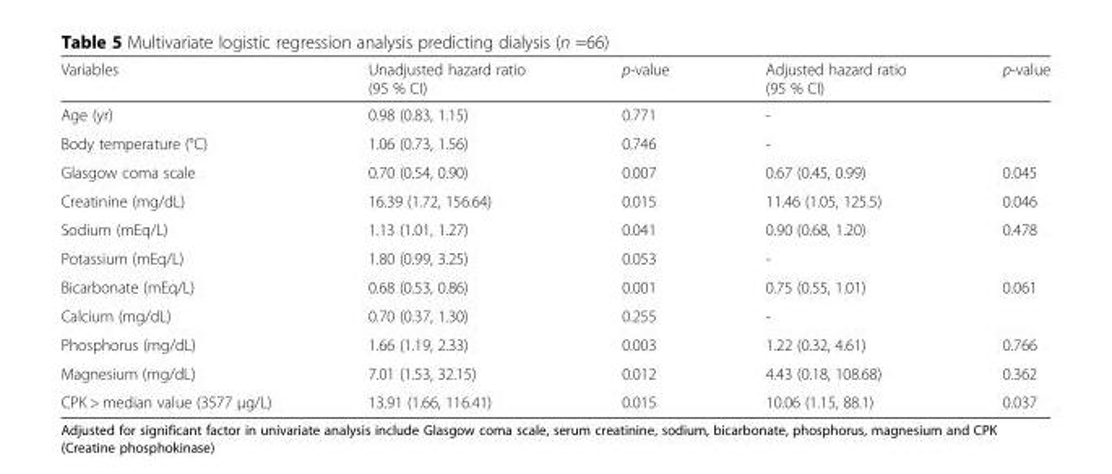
<table><thead><tr><td>Variables</td><td>Unadjusted hazard ratio (95 % CI)</td><td>p-value</td><td>Adjusted hazard ratio (95 % CI)</td><td>p-value</td></tr></thead><tbody><tr><td>Age (yr)</td><td>0.98 (0.83, 1.15)</td><td>0.771</td><td>-</td><td></td></tr><tr><td>Body temperature (°C)</td><td>1.06 (0.73, 1.56)</td><td>0.746</td><td>-</td><td></td></tr><tr><td>Glasgow coma scale</td><td>0.70 (0.54, 0.90)</td><td>0.007</td><td>0.67 (0.45, 0.99)</td><td>0.045</td></tr><tr><td>Creatinine (mg/dL)</td><td>16.39 (1.72, 156.64)</td><td>0.015</td><td>11.46 (1.05, 125.5)</td><td>0.046</td></tr><tr><td>Sodium (mEq/L)</td><td>1.13 (1.01, 1.27)</td><td>0.041</td><td>0.90 (0.68, 1.20)</td><td>0.478</td></tr><tr><td>Potassium (mEq/L)</td><td>1.80 (0.99, 3.25)</td><td>0.053</td><td>-</td><td></td></tr><tr><td>Bicarbonate (mEq/L)</td><td>0.68 (0.53, 0.86)</td><td>0.001</td><td>0.75 (0.55, 1.01)</td><td>0.061</td></tr><tr><td>Calcium (mg/dL)</td><td>0.70 (0.37, 1.30)</td><td>0.255</td><td>-</td><td></td></tr><tr><td>Phosphorus (mg/dL)</td><td>1.66 (1.19, 2.33)</td><td>0.003</td><td>1.22 (0.32, 4.61)</td><td>0.766</td></tr><tr><td>Magnesium (mg/dL)</td><td>7.01 (1.53, 32.15)</td><td>0.012</td><td>4.43 (0.18, 108.68)</td><td>0.362</td></tr><tr><td>CPK &gt; median value (3577 μg/L)</td><td>13.91 (1.66, 116.41)</td><td>0.015</td><td>10.06 (1.15, 88.1)</td><td>0.037</td></tr></tbody></table>